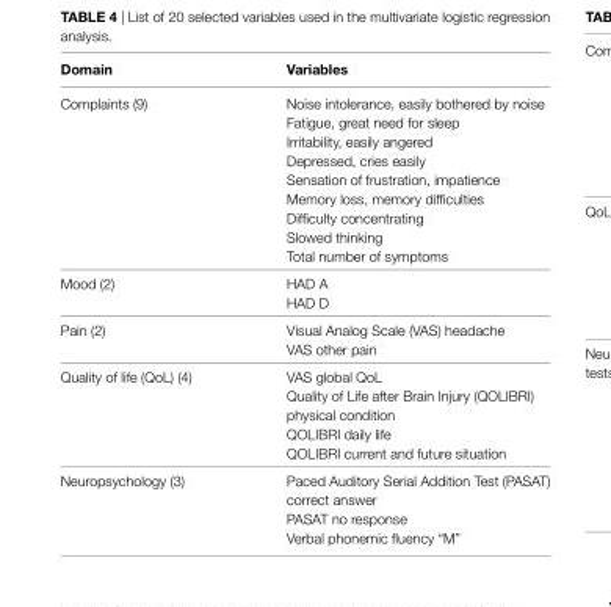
<table><thead><tr><td>Domain</td><td>Variables</td></tr></thead><tbody><tr><td rowspan="9">Complaints (9)</td><td>Noise intolerance, easily bothered by noise</td></tr><tr><td>Fatigue, great need for sleep</td></tr><tr><td>Irritability, easily angered</td></tr><tr><td>Depressed, cries easily</td></tr><tr><td>Sensation of frustration, impatience</td></tr><tr><td>Memory loss, memory difficulties</td></tr><tr><td>Difficulty concentrating</td></tr><tr><td>Slowed thinking</td></tr><tr><td>Total number of symptoms</td></tr><tr><td rowspan="2">Mood (2)</td><td>HAD A</td></tr><tr><td>HAD D</td></tr><tr><td rowspan="2">Pain (2)</td><td>Visual Analog Scale (VAS) headache</td></tr><tr><td>VAS other pain</td></tr><tr><td rowspan="4">Quality of life (QoL) (4)</td><td>VAS global QoL</td></tr><tr><td>Quality of Life after Brain Injury (QOLIBRI) physical condition</td></tr><tr><td>QOLIBRI daily life</td></tr><tr><td>QOLIBRI current and future situation</td></tr><tr><td rowspan="3">Neuropsychology (3)</td><td>Paced Auditory Serial Addition Test (PASAT) correct answer</td></tr><tr><td>PASAT no response</td></tr><tr><td>Verbal phonemic fluency “M”</td></tr></tbody></table>